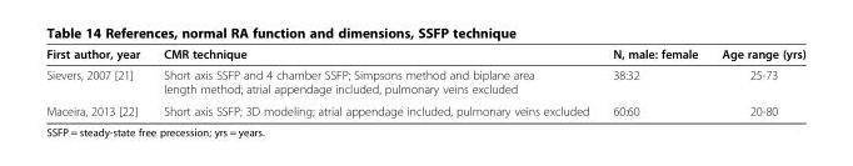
<table><thead><tr><td>First author, year</td><td>CMR technique</td><td>N, male: female</td><td>Age range (yrs)</td></tr></thead><tbody><tr><td>Sievers, 2007 [21]</td><td>Short axis SSFP and 4 chamber SSFP; Simpsons method and biplane area length method; atrial appendage included, pulmonary veins excluded</td><td>38:32</td><td>25-73</td></tr><tr><td>Maceira, 2013 [22]</td><td>Short axis SSFP; 3D modeling; atrial appendage included, pulmonary veins excluded</td><td>60:60</td><td>20-80</td></tr></tbody></table>